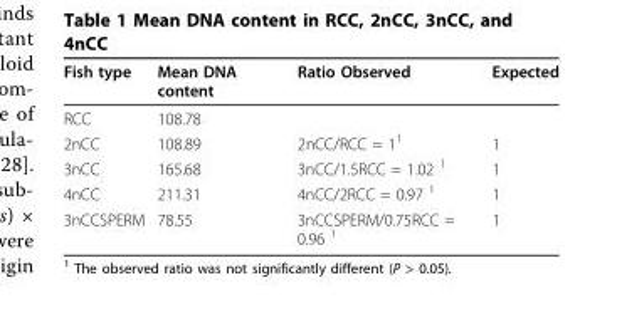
<table><thead><tr><td>Fish type</td><td>Mean DNA content</td><td>Ratio Observed</td><td>Expected</td></tr></thead><tbody><tr><td>RCC</td><td>108.78</td><td></td><td></td></tr><tr><td>2nCC</td><td>108.89</td><td>2nCC/RCC = 1<sup>1</sup></td><td>1</td></tr><tr><td>3nCC</td><td>165.68</td><td>3nCC/1.5RCC = 1.02 <sup>1</sup></td><td>1</td></tr><tr><td>4nCC</td><td>211.31</td><td>4nCC/2RCC = 0.97 <sup>1</sup></td><td>1</td></tr><tr><td>3nCCSPERM</td><td>78.55</td><td>3nCCSPERM/0.75RCC = 0.96 <sup>1</sup></td><td>1</td></tr></tbody></table>